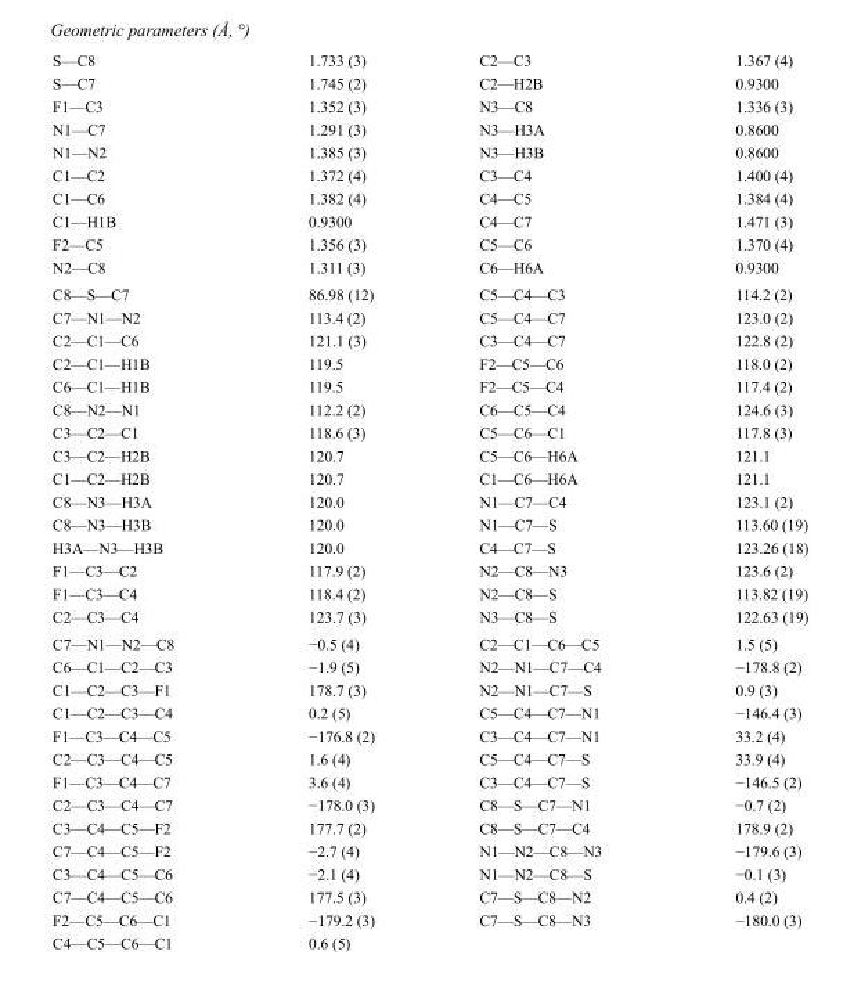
<table><tbody><tr><td>S—C8</td><td>1.733 (3)</td><td>C2—C3</td><td>1.367 (4)</td></tr><tr><td>S—C7</td><td>1.745 (2)</td><td>C2—H2B</td><td>0.9300</td></tr><tr><td>F1—C3</td><td>1.352 (3)</td><td>N3—C8</td><td>1.336 (3)</td></tr><tr><td>N1—C7</td><td>1.291 (3)</td><td>N3—H3A</td><td>0.8600</td></tr><tr><td>N1—N2</td><td>1.385 (3)</td><td>N3—H3B</td><td>0.8600</td></tr><tr><td>C1—C2</td><td>1.372 (4)</td><td>C3—C4</td><td>1.400 (4)</td></tr><tr><td>C1—C6</td><td>1.382 (4)</td><td>C4—C5</td><td>1.384 (4)</td></tr><tr><td>C1—H1B</td><td>0.9300</td><td>C4—C7</td><td>1.471 (3)</td></tr><tr><td>F2—C5</td><td>1.356 (3)</td><td>C5—C6</td><td>1.370 (4)</td></tr><tr><td>N2—C8</td><td>1.311 (3)</td><td>C6—H6A</td><td>0.9300</td></tr><tr><td>C8—S—C7</td><td>86.98 (12)</td><td>C5—C4—C3</td><td>114.2 (2)</td></tr><tr><td>C7—N1—N2</td><td>113.4 (2)</td><td>C5—C4—C7</td><td>123.0 (2)</td></tr><tr><td>C2—C1—C6</td><td>121.1 (3)</td><td>C3—C4—C7</td><td>122.8 (2)</td></tr><tr><td>C2—C1—H1B</td><td>119.5</td><td>F2—C5—C6</td><td>118.0 (2)</td></tr><tr><td>C6—C1—H1B</td><td>119.5</td><td>F2—C5—C4</td><td>117.4 (2)</td></tr><tr><td>C8—N2—N1</td><td>112.2 (2)</td><td>C6—C5—C4</td><td>124.6 (3)</td></tr><tr><td>C3—C2—C1</td><td>118.6 (3)</td><td>C5—C6—C1</td><td>117.8 (3)</td></tr><tr><td>C3—C2—H2B</td><td>120.7</td><td>C5—C6—H6A</td><td>121.1</td></tr><tr><td>C1—C2—H2B</td><td>120.7</td><td>C1—C6—H6A</td><td>121.1</td></tr><tr><td>C8—N3—H3A</td><td>120.0</td><td>N1—C7—C4</td><td>123.1 (2)</td></tr><tr><td>C8—N3—H3B</td><td>120.0</td><td>N1—C7—S</td><td>113.60 (19)</td></tr><tr><td>H3A—N3—H3B</td><td>120.0</td><td>C4—C7—S</td><td>123.26 (18)</td></tr><tr><td>F1—C3—C2</td><td>117.9 (2)</td><td>N2—C8—N3</td><td>123.6 (2)</td></tr><tr><td>F1—C3—C4</td><td>118.4 (2)</td><td>N2—C8—S</td><td>113.82 (19)</td></tr><tr><td>C2—C3—C4</td><td>123.7 (3)</td><td>N3—C8—S</td><td>122.63 (19)</td></tr><tr><td>C7—N1—N2—C8</td><td>−0.5 (4)</td><td>C2—C1—C6—C5</td><td>1.5 (5)</td></tr><tr><td>C6—C1—C2—C3</td><td>−1.9 (5)</td><td>N2—N1—C7—C4</td><td>−178.8 (2)</td></tr><tr><td>C1—C2—C3—F1</td><td>178.7 (3)</td><td>N2—N1—C7—S</td><td>0.9 (3)</td></tr><tr><td>C1—C2—C3—C4</td><td>0.2 (5)</td><td>C5—C4—C7—N1</td><td>−146.4 (3)</td></tr><tr><td>F1—C3—C4—C5</td><td>−176.8 (2)</td><td>C3—C4—C7—N1</td><td>33.2 (4)</td></tr><tr><td>C2—C3—C4—C5</td><td>1.6 (4)</td><td>C5—C4—C7—S</td><td>33.9 (4)</td></tr><tr><td>F1—C3—C4—C7</td><td>3.6 (4)</td><td>C3—C4—C7—S</td><td>−146.5 (2)</td></tr><tr><td>C2—C3—C4—C7</td><td>−178.0 (3)</td><td>C8—S—C7—N1</td><td>−0.7 (2)</td></tr><tr><td>C3—C4—C5—F2</td><td>177.7 (2)</td><td>C8—S—C7—C4</td><td>178.9 (2)</td></tr><tr><td>C7—C4—C5—F2</td><td>−2.7 (4)</td><td>N1—N2—C8—N3</td><td>−179.6 (3)</td></tr><tr><td>C3—C4—C5—C6</td><td>−2.1 (4)</td><td>N1—N2—C8—S</td><td>−0.1 (3)</td></tr><tr><td>C7—C4—C5—C6</td><td>177.5 (3)</td><td>C7—S—C8—N2</td><td>0.4 (2)</td></tr><tr><td>F2—C5—C6—C1</td><td>−179.2 (3)</td><td>C7—S—C8—N3</td><td>−180.0 (3)</td></tr><tr><td>C4—C5—C6—C1</td><td>0.6 (5)</td><td></td><td></td></tr></tbody></table>